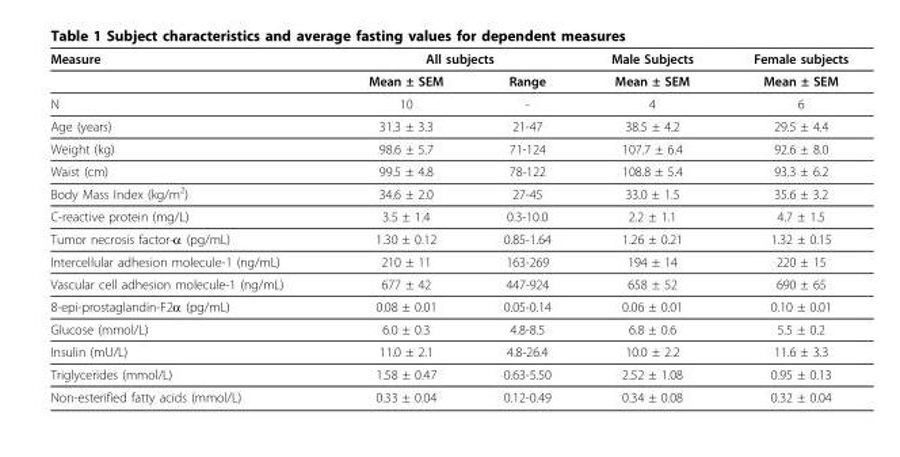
<table><thead><tr><td rowspan="2">Measure</td><td colspan="2">All subjects</td><td rowspan="2">Male Subjects Mean ± SEM</td><td rowspan="2">Female subjects Mean ± SEM</td></tr><tr><td>Mean ± SEM</td><td>Range</td></tr></thead><tbody><tr><td>N</td><td>10</td><td>-</td><td>4</td><td>6</td></tr><tr><td>Age (years)</td><td>31.3 ± 3.3</td><td>21-47</td><td>38.5 ± 4.2</td><td>29.5 ± 4.4</td></tr><tr><td>Weight (kg)</td><td>98.6 ± 5.7</td><td>71-124</td><td>107.7 ± 6.4</td><td>92.6 ± 8.0</td></tr><tr><td>Waist (cm)</td><td>99.5 ± 4.8</td><td>78-122</td><td>108.8 ± 5.4</td><td>93.3 ± 6.2</td></tr><tr><td>Body Mass Index (kg/m<sup>2</sup>)</td><td>34.6 ± 2.0</td><td>27-45</td><td>33.0 ± 1.5</td><td>35.6 ± 3.2</td></tr><tr><td>C-reactive protein (mg/L)</td><td>3.5 ± 1.4</td><td>0.3-10.0</td><td>2.2 ± 1.1</td><td>4.7 ± 1.5</td></tr><tr><td>Tumor necrosis factor-α (pg/mL)</td><td>1.30 ± 0.12</td><td>0.85-1.64</td><td>1.26 ± 0.21</td><td>1.32 ± 0.15</td></tr><tr><td>Intercellular adhesion molecule-1 (ng/mL)</td><td>210 ± 11</td><td>163-269</td><td>194 ± 14</td><td>220 ± 15</td></tr><tr><td>Vascular cell adhesion molecule-1 (ng/mL)</td><td>677 ± 42</td><td>447-924</td><td>658 ± 52</td><td>690 ± 65</td></tr><tr><td>8-epi-prostaglandin-F2α (pg/mL)</td><td>0.08 ± 0.01</td><td>0.05-0.14</td><td>0.06 ± 0.01</td><td>0.10 ± 0.01</td></tr><tr><td>Glucose (mmol/L)</td><td>6.0 ± 0.3</td><td>4.8-8.5</td><td>6.8 ± 0.6</td><td>5.5 ± 0.2</td></tr><tr><td>Insulin (mU/L)</td><td>11.0 ± 2.1</td><td>4.8-26.4</td><td>10.0 ± 2.2</td><td>11.6 ± 3.3</td></tr><tr><td>Triglycerides (mmol/L)</td><td>1.58 ± 0.47</td><td>0.63-5.50</td><td>2.52 ± 1.08</td><td>0.95 ± 0.13</td></tr><tr><td>Non-esterified fatty acids (mmol/L)</td><td>0.33 ± 0.04</td><td>0.12-0.49</td><td>0.34 ± 0.08</td><td>0.32 ± 0.04</td></tr></tbody></table>